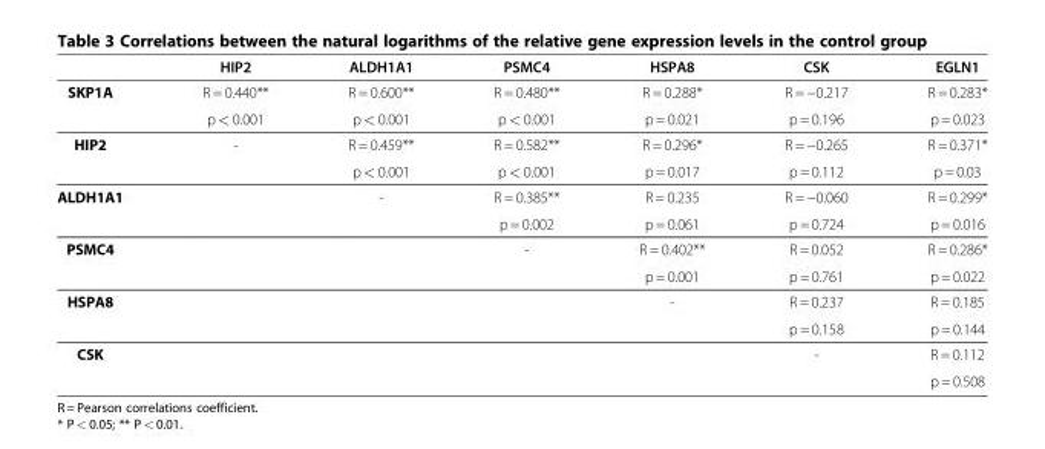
<table><thead><tr><td></td><td>HIP2</td><td>ALDH1A1</td><td>PSMC4</td><td>HSPA8</td><td>CSK</td><td>EGLN1</td></tr></thead><tbody><tr><td rowspan="2">SKP1A</td><td>R = 0.440**</td><td>R = 0.600**</td><td>R = 0.480**</td><td>R = 0.288*</td><td>R = −0.217</td><td>R = 0.283*</td></tr><tr><td>p &lt; 0.001</td><td>p &lt; 0.001</td><td>p &lt; 0.001</td><td>p = 0.021</td><td>p = 0.196</td><td>p = 0.023</td></tr><tr><td rowspan="2">HIP2</td><td>-</td><td>R = 0.459**</td><td>R = 0.582**</td><td>R = 0.296*</td><td>R = −0.265</td><td>R = 0.371*</td></tr><tr><td></td><td>p &lt; 0.001</td><td>p &lt; 0.001</td><td>p = 0.017</td><td>p = 0.112</td><td>p = 0.03</td></tr><tr><td rowspan="2">ALDH1A1</td><td></td><td>-</td><td>R = 0.385**</td><td>R = 0.235</td><td>R = −0.060</td><td>R = 0.299*</td></tr><tr><td></td><td></td><td>p = 0.002</td><td>p = 0.061</td><td>p = 0.724</td><td>p = 0.016</td></tr><tr><td rowspan="2">PSMC4</td><td></td><td></td><td>-</td><td>R = 0.402**</td><td>R = 0.052</td><td>R = 0.286*</td></tr><tr><td></td><td></td><td></td><td>p = 0.001</td><td>p = 0.761</td><td>p = 0.022</td></tr><tr><td rowspan="2">HSPA8</td><td></td><td></td><td></td><td>-</td><td>R = 0.237</td><td>R = 0.185</td></tr><tr><td></td><td></td><td></td><td></td><td>p = 0.158</td><td>p = 0.144</td></tr><tr><td rowspan="2">CSK</td><td></td><td></td><td></td><td></td><td>-</td><td>R = 0.112</td></tr><tr><td></td><td></td><td></td><td></td><td></td><td>p = 0.508</td></tr></tbody></table>